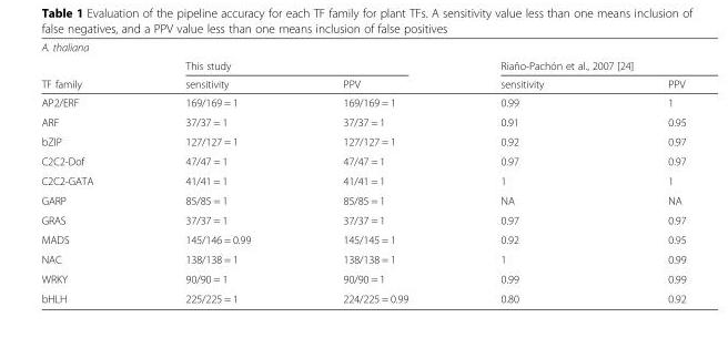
<table><thead><tr><td colspan="2">A. thaliana</td><td></td><td></td><td></td></tr><tr><td rowspan="2">TF family</td><td colspan="2">This study</td><td colspan="2">Riaño-Pachón et al., 2007 [24]</td></tr><tr><td>sensitivity</td><td>PPV</td><td>sensitivity</td><td>PPV</td></tr></thead><tbody><tr><td>AP2/ERF</td><td>169/169 = 1</td><td>169/169 = 1</td><td>0.99</td><td>1</td></tr><tr><td>ARF</td><td>37/37 = 1</td><td>37/37 = 1</td><td>0.91</td><td>0.95</td></tr><tr><td>bZIP</td><td>127/127 = 1</td><td>127/127 = 1</td><td>0.92</td><td>0.97</td></tr><tr><td>C2C2-Dof</td><td>47/47 = 1</td><td>47/47 = 1</td><td>0.97</td><td>0.97</td></tr><tr><td>C2C2-GATA</td><td>41/41 = 1</td><td>41/41 = 1</td><td>1</td><td>1</td></tr><tr><td>GARP</td><td>85/85 = 1</td><td>85/85 = 1</td><td>NA</td><td>NA</td></tr><tr><td>GRAS</td><td>37/37 = 1</td><td>37/37 = 1</td><td>0.97</td><td>0.97</td></tr><tr><td>MADS</td><td>145/146 = 0.99</td><td>145/145 = 1</td><td>0.92</td><td>0.95</td></tr><tr><td>NAC</td><td>138/138 = 1</td><td>138/138 = 1</td><td>1</td><td>0.99</td></tr><tr><td>WRKY</td><td>90/90 = 1</td><td>90/90 = 1</td><td>0.99</td><td>0.99</td></tr><tr><td>bHLH</td><td>225/225 = 1</td><td>224/225 = 0.99</td><td>0.80</td><td>0.92</td></tr></tbody></table>